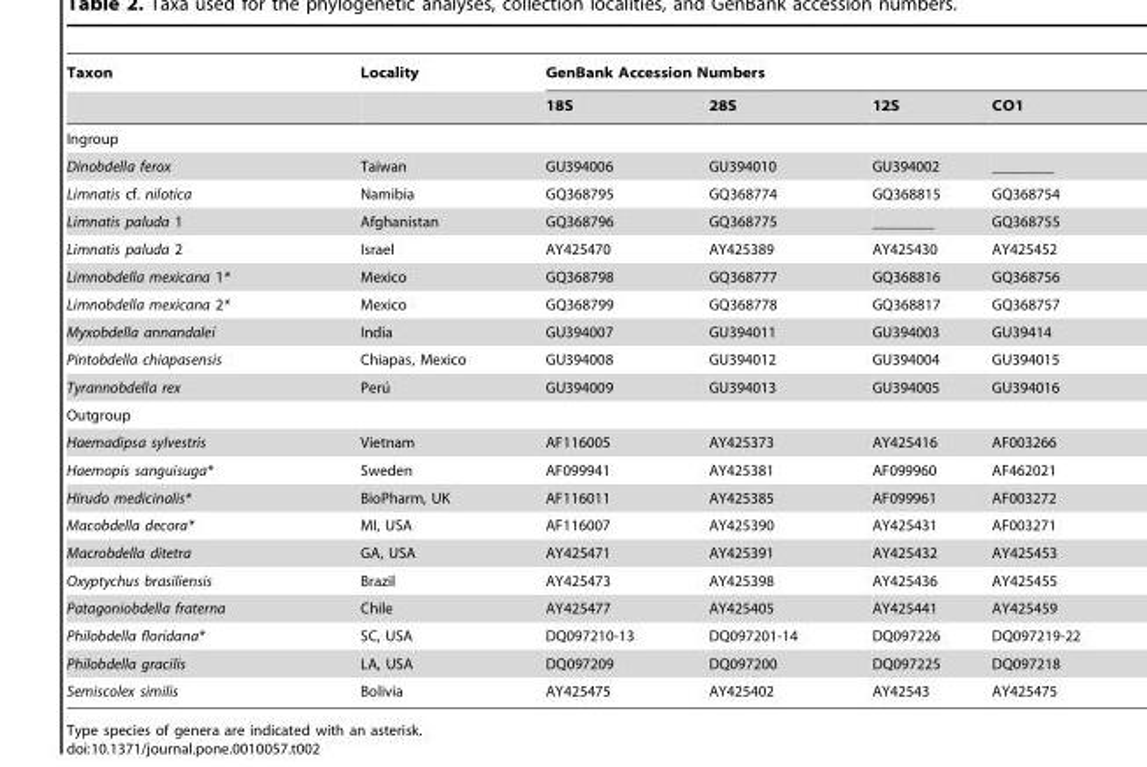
<table><thead><tr><td rowspan="2">Taxon</td><td rowspan="2">Locality</td><td colspan="4">GenBank Accession Numbers</td></tr><tr><td>18S</td><td>28S</td><td>12S</td><td>CO1</td></tr></thead><tbody><tr><td colspan="6">Ingroup</td></tr><tr><td>Dinobdella ferox</td><td>Taiwan</td><td>GU394006</td><td>GU394010</td><td>GU394002</td><td>________</td></tr><tr><td>Limnatis cf. nilotica</td><td>Namibia</td><td>GQ368795</td><td>GQ368774</td><td>GQ368815</td><td>GQ368754</td></tr><tr><td>Limnatis paluda 1</td><td>Afghanistan</td><td>GQ368796</td><td>GQ368775</td><td>________</td><td>GQ368755</td></tr><tr><td>Limnatis paluda 2</td><td>Israel</td><td>AY425470</td><td>AY425389</td><td>AY425430</td><td>AY425452</td></tr><tr><td>Limnobdella mexicana 1*</td><td>Mexico</td><td>GQ368798</td><td>GQ368777</td><td>GQ368816</td><td>GQ368756</td></tr><tr><td>Limnobdella mexicana 2*</td><td>Mexico</td><td>GQ368799</td><td>GQ368778</td><td>GQ368817</td><td>GQ368757</td></tr><tr><td>Myxobdella annandalei</td><td>India</td><td>GU394007</td><td>GU394011</td><td>GU394003</td><td>GU39414</td></tr><tr><td>Pintobdella chiapasensis</td><td>Chiapas, Mexico</td><td>GU394008</td><td>GU394012</td><td>GU394004</td><td>GU394015</td></tr><tr><td>Tyrannobdella rex</td><td>Peru´</td><td>GU394009</td><td>GU394013</td><td>GU394005</td><td>GU394016</td></tr><tr><td colspan="6">Outgroup</td></tr><tr><td>Haemadipsa sylvestris</td><td>Vietnam</td><td>AF116005</td><td>AY425373</td><td>AY425416</td><td>AF003266</td></tr><tr><td>Haemopis sanguisuga*</td><td>Sweden</td><td>AF099941</td><td>AY425381</td><td>AF099960</td><td>AF462021</td></tr><tr><td>Hirudo medicinalis*</td><td>BioPharm, UK</td><td>AF116011</td><td>AY425385</td><td>AF099961</td><td>AF003272</td></tr><tr><td>Macobdella decora*</td><td>MI, USA</td><td>AF116007</td><td>AY425390</td><td>AY425431</td><td>AF003271</td></tr><tr><td>Macrobdella ditetra</td><td>GA, USA</td><td>AY425471</td><td>AY425391</td><td>AY425432</td><td>AY425453</td></tr><tr><td>Oxyptychus brasiliensis</td><td>Brazil</td><td>AY425473</td><td>AY425398</td><td>AY425436</td><td>AY425455</td></tr><tr><td>Patagoniobdella fraterna</td><td>Chile</td><td>AY425477</td><td>AY425405</td><td>AY425441</td><td>AY425459</td></tr><tr><td>Philobdella floridana*</td><td>SC, USA</td><td>DQ097210-13</td><td>DQ097201-14</td><td>DQ097226</td><td>DQ097219-22</td></tr><tr><td>Philobdella gracilis</td><td>LA, USA</td><td>DQ097209</td><td>DQ097200</td><td>DQ097225</td><td>DQ097218</td></tr><tr><td>Semiscolex similis</td><td>Bolivia</td><td>AY425475</td><td>AY425402</td><td>AY42543</td><td>AY425475</td></tr></tbody></table>